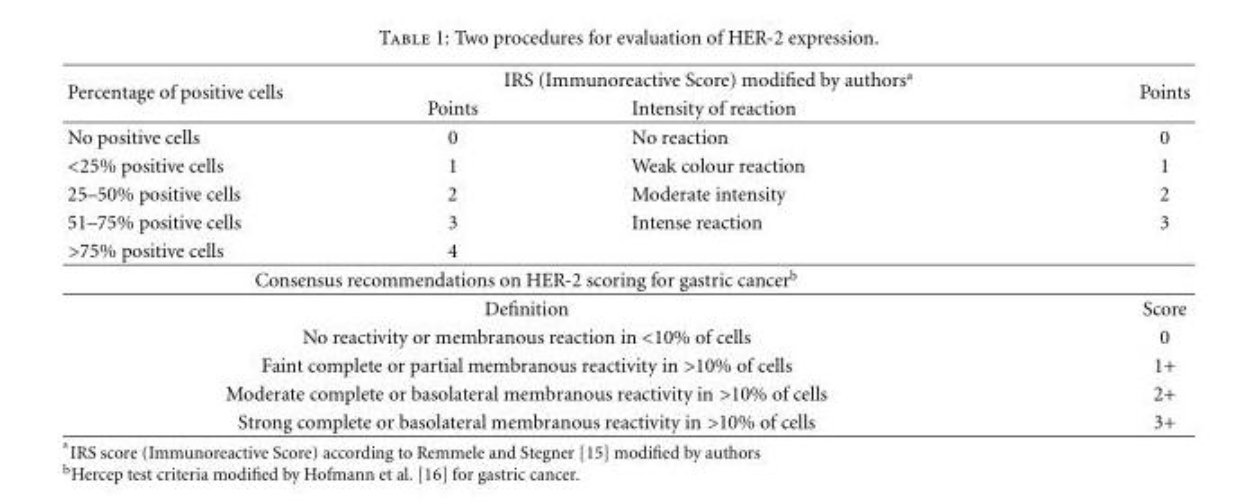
<table><thead><tr><td rowspan="2">Percentage of positive cells</td><td colspan="2">IRS (Immunoreactive Score) modified by authors<sup>a</sup></td><td rowspan="2">Points</td></tr><tr><td>Points</td><td>Intensity of reaction</td></tr></thead><tbody><tr><td>No positive cells</td><td>0</td><td>No reaction</td><td>0</td></tr><tr><td>&lt;25% positive cells</td><td>1</td><td>Weak colour reaction</td><td>1</td></tr><tr><td>25–50% positive cells</td><td>2</td><td>Moderate intensity</td><td>2</td></tr><tr><td>51–75% positive cells</td><td>3</td><td>Intense reaction</td><td>3</td></tr><tr><td>&gt;75% positive cells</td><td>4</td><td></td><td></td></tr><tr><td colspan="4">Consensus recommendations on HER-2 scoring for gastric cancer<sup>b</sup></td></tr><tr><td colspan="3">Definition</td><td>Score</td></tr><tr><td colspan="3">No reactivity or membranous reaction in &lt;10% of cells</td><td>0</td></tr><tr><td colspan="3">Faint complete or partial membranous reactivity in &gt;10% of cells</td><td>1+</td></tr><tr><td colspan="3">Moderate complete or basolateral membranous reactivity in &gt;10% of cells</td><td>2+</td></tr><tr><td colspan="3">Strong complete or basolateral membranous reactivity in &gt;10% of cells</td><td>3+</td></tr></tbody></table>